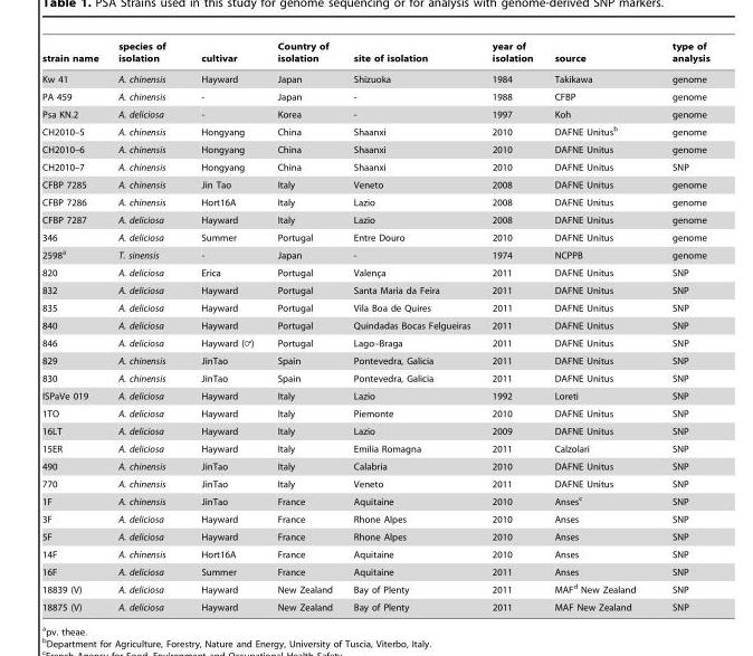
<table><thead><tr><td>strain name</td><td>species of isolation</td><td>cultivar</td><td>Country of isolation</td><td>site of isolation</td><td>year of isolation</td><td>source</td><td>type of analysis</td></tr></thead><tbody><tr><td>Kw 41</td><td>A. chinensis</td><td>Hayward</td><td>Japan</td><td>Shizuoka</td><td>1984</td><td>Takikawa</td><td>genome</td></tr><tr><td>PA 459</td><td>A. chinensis</td><td>-</td><td>Japan</td><td>-</td><td>1988</td><td>CFBP</td><td>genome</td></tr><tr><td>Psa KN.2</td><td>A. deliciosa</td><td>-</td><td>Korea</td><td>-</td><td>1997</td><td>Koh</td><td>genome</td></tr><tr><td>CH2010–5</td><td>A. chinensis</td><td>Hongyang</td><td>China</td><td>Shaanxi</td><td>2010</td><td>DAFNE Unitus<sup>b</sup></td><td>genome</td></tr><tr><td>CH2010–6</td><td>A. chinensis</td><td>Hongyang</td><td>China</td><td>Shaanxi</td><td>2010</td><td>DAFNE Unitus</td><td>genome</td></tr><tr><td>CH2010–7</td><td>A. chinensis</td><td>Hongyang</td><td>China</td><td>Shaanxi</td><td>2010</td><td>DAFNE Unitus</td><td>SNP</td></tr><tr><td>CFBP 7285</td><td>A. chinensis</td><td>Jin Tao</td><td>Italy</td><td>Veneto</td><td>2008</td><td>DAFNE Unitus</td><td>genome</td></tr><tr><td>CFBP 7286</td><td>A. chinensis</td><td>Hort16A</td><td>Italy</td><td>Lazio</td><td>2008</td><td>DAFNE Unitus</td><td>genome</td></tr><tr><td>CFBP 7287</td><td>A. deliciosa</td><td>Hayward</td><td>Italy</td><td>Lazio</td><td>2008</td><td>DAFNE Unitus</td><td>genome</td></tr><tr><td>346</td><td>A. deliciosa</td><td>Summer</td><td>Portugal</td><td>Entre Douro</td><td>2010</td><td>DAFNE Unitus</td><td>genome</td></tr><tr><td>2598<sup>a</sup></td><td>T. sinensis</td><td>-</td><td>Japan</td><td>-</td><td>1974</td><td>NCPPB</td><td>genome</td></tr><tr><td>820</td><td>A. deliciosa</td><td>Erica</td><td>Portugal</td><td>Valenc¸a</td><td>2011</td><td>DAFNE Unitus</td><td>SNP</td></tr><tr><td>832</td><td>A. deliciosa</td><td>Hayward</td><td>Portugal</td><td>Santa Maria da Feira</td><td>2011</td><td>DAFNE Unitus</td><td>SNP</td></tr><tr><td>835</td><td>A. deliciosa</td><td>Hayward</td><td>Portugal</td><td>Vila Boa de Quires</td><td>2011</td><td>DAFNE Unitus</td><td>SNP</td></tr><tr><td>840</td><td>A. deliciosa</td><td>Hayward</td><td>Portugal</td><td>Quindadas Bocas Felgueiras</td><td>2011</td><td>DAFNE Unitus</td><td>SNP</td></tr><tr><td>846</td><td>A. deliciosa</td><td>Hayward (=)</td><td>Portugal</td><td>Lago–Braga</td><td>2011</td><td>DAFNE Unitus</td><td>SNP</td></tr><tr><td>829</td><td>A. chinensis</td><td>JinTao</td><td>Spain</td><td>Pontevedra, Galicia</td><td>2011</td><td>DAFNE Unitus</td><td>SNP</td></tr><tr><td>830</td><td>A. chinensis</td><td>JinTao</td><td>Spain</td><td>Pontevedra, Galicia</td><td>2011</td><td>DAFNE Unitus</td><td>SNP</td></tr><tr><td>ISPaVe 019</td><td>A. deliciosa</td><td>Hayward</td><td>Italy</td><td>Lazio</td><td>1992</td><td>Loreti</td><td>SNP</td></tr><tr><td>1TO</td><td>A. deliciosa</td><td>Hayward</td><td>Italy</td><td>Piemonte</td><td>2010</td><td>DAFNE Unitus</td><td>SNP</td></tr><tr><td>16LT</td><td>A. deliciosa</td><td>Hayward</td><td>Italy</td><td>Lazio</td><td>2009</td><td>DAFNE Unitus</td><td>SNP</td></tr><tr><td>15ER</td><td>A. deliciosa</td><td>Hayward</td><td>Italy</td><td>Emilia Romagna</td><td>2011</td><td>Calzolari</td><td>SNP</td></tr><tr><td>490</td><td>A. chinensis</td><td>JinTao</td><td>Italy</td><td>Calabria</td><td>2010</td><td>DAFNE Unitus</td><td>SNP</td></tr><tr><td>770</td><td>A. chinensis</td><td>JinTao</td><td>Italy</td><td>Veneto</td><td>2011</td><td>DAFNE Unitus</td><td>SNP</td></tr><tr><td>1F</td><td>A. chinensis</td><td>JinTao</td><td>France</td><td>Aquitaine</td><td>2010</td><td>Anses<sup>c</sup></td><td>SNP</td></tr><tr><td>3F</td><td>A. deliciosa</td><td>Hayward</td><td>France</td><td>Rhone Alpes</td><td>2010</td><td>Anses</td><td>SNP</td></tr><tr><td>5F</td><td>A. deliciosa</td><td>Hayward</td><td>France</td><td>Rhone Alpes</td><td>2010</td><td>Anses</td><td>SNP</td></tr><tr><td>14F</td><td>A. chinensis</td><td>Hort16A</td><td>France</td><td>Aquitaine</td><td>2010</td><td>Anses</td><td>SNP</td></tr><tr><td>16F</td><td>A. deliciosa</td><td>Summer</td><td>France</td><td>Aquitaine</td><td>2011</td><td>Anses</td><td>SNP</td></tr><tr><td>18839 (V)</td><td>A. deliciosa</td><td>Hayward</td><td>New Zealand</td><td>Bay of Plenty</td><td>2011</td><td>MAF<sup>d</sup> New Zealand</td><td>SNP</td></tr><tr><td>18875 (V)</td><td>A. deliciosa</td><td>Hayward</td><td>New Zealand</td><td>Bay of Plenty</td><td>2011</td><td>MAF New Zealand</td><td>SNP</td></tr></tbody></table>